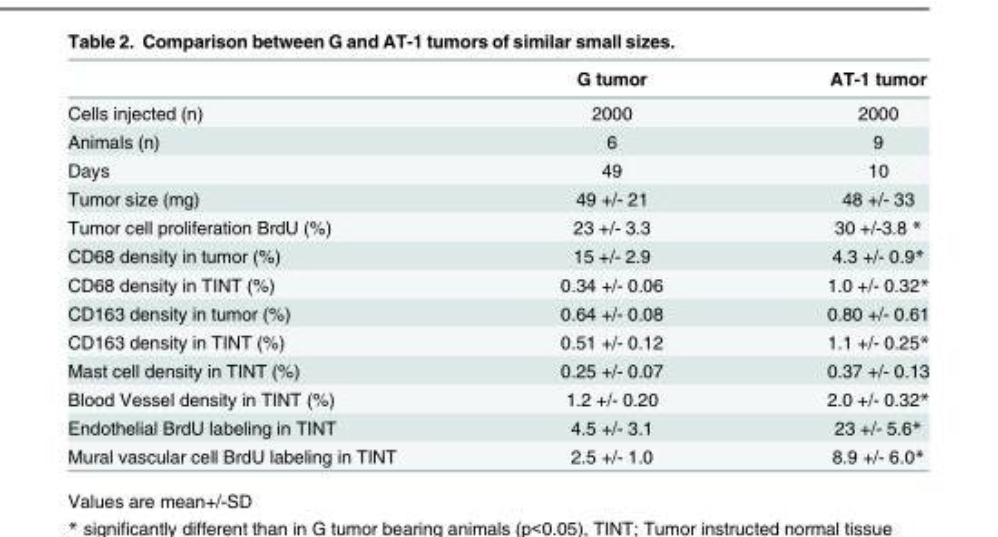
<table><thead><tr><td></td><td>G tumor</td><td>AT-1 tumor</td></tr></thead><tbody><tr><td>Cells injected (n)</td><td>2000</td><td>2000</td></tr><tr><td>Animals (n)</td><td>6</td><td>9</td></tr><tr><td>Days</td><td>49</td><td>10</td></tr><tr><td>Tumor size (mg)</td><td>49 +/- 21</td><td>48 +/- 33</td></tr><tr><td>Tumor cell proliferation BrdU (%)</td><td>23 +/- 3.3</td><td>30 +/-3.8 *</td></tr><tr><td>CD68 density in tumor (%)</td><td>15 +/- 2.9</td><td>4.3 +/- 0.9*</td></tr><tr><td>CD68 density in TINT (%)</td><td>0.34 +/- 0.06</td><td>1.0 +/- 0.32*</td></tr><tr><td>CD163 density in tumor (%)</td><td>0.64 +/- 0.08</td><td>0.80 +/- 0.61</td></tr><tr><td>CD163 density in TINT (%)</td><td>0.51 +/- 0.12</td><td>1.1 +/- 0.25*</td></tr><tr><td>Mast cell density in TINT (%)</td><td>0.25 +/- 0.07</td><td>0.37 +/- 0.13</td></tr><tr><td>Blood Vessel density in TINT (%)</td><td>1.2 +/- 0.20</td><td>2.0 +/- 0.32*</td></tr><tr><td>Endothelial BrdU labeling in TINT</td><td>4.5 +/- 3.1</td><td>23 +/- 5.6*</td></tr><tr><td>Mural vascular cell BrdU labeling in TINT</td><td>2.5 +/- 1.0</td><td>8.9 +/- 6.0*</td></tr></tbody></table>